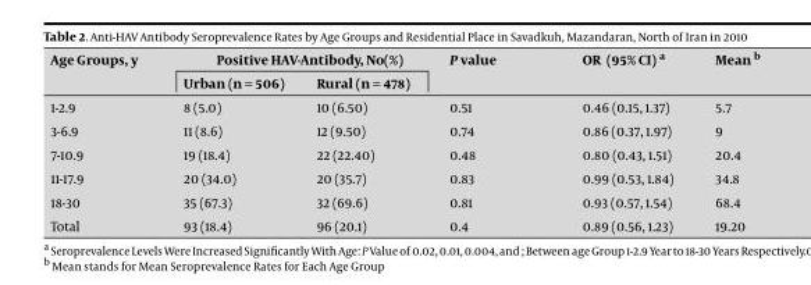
<table><thead><tr><td rowspan="2">Age Groups, y</td><td colspan="2">Positive HAV-Antibody, No(%)</td><td rowspan="2">P value</td><td rowspan="2">OR (95% CI) a</td><td rowspan="2">Mean b</td></tr><tr><td>Urban (n = 506)</td><td>Rural (n = 478)</td></tr></thead><tbody><tr><td>1-2.9</td><td>8 (5.0)</td><td>10 (6.50)</td><td>0.51</td><td>0.46 (0.15, 1.37)</td><td>5.7</td></tr><tr><td>3-6.9</td><td>11 (8.6)</td><td>12 (9.50)</td><td>0.74</td><td>0.86 (0.37, 1.97)</td><td>9</td></tr><tr><td>7-10.9</td><td>19 (18.4)</td><td>22 (22.40)</td><td>0.48</td><td>0.80 (0.43, 1.51)</td><td>20.4</td></tr><tr><td>11-17.9</td><td>20 (34.0)</td><td>20 (35.7)</td><td>0.83</td><td>0.99 (0.53, 1.84)</td><td>34.8</td></tr><tr><td>18-30</td><td>35 (67.3)</td><td>32 (69.6)</td><td>0.81</td><td>0.93 (0.57, 1.54)</td><td>68.4</td></tr><tr><td>Total</td><td>93 (18.4)</td><td>96 (20.1)</td><td>0.4</td><td>0.89 (0.56, 1.23)</td><td>19.20</td></tr></tbody></table>